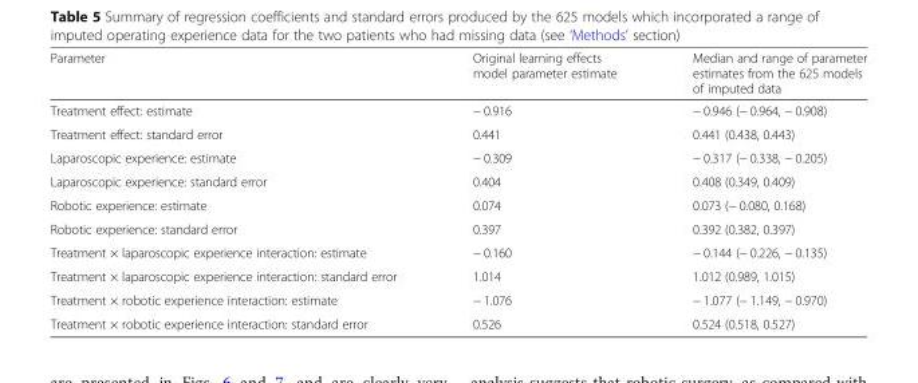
<table><thead><tr><td>Parameter</td><td>Original learning effects model parameter estimate</td><td>Median and range of parameter estimates from the 625 models of imputed data</td></tr></thead><tbody><tr><td>Treatment effect: estimate</td><td>− 0.916</td><td>− 0.946 (− 0.964, − 0.908)</td></tr><tr><td>Treatment effect: standard error</td><td>0.441</td><td>0.441 (0.438, 0.443)</td></tr><tr><td>Laparoscopic experience: estimate</td><td>− 0.309</td><td>− 0.317 (− 0.338, − 0.205)</td></tr><tr><td>Laparoscopic experience: standard error</td><td>0.404</td><td>0.408 (0.349, 0.409)</td></tr><tr><td>Robotic experience: estimate</td><td>0.074</td><td>0.073 (− 0.080, 0.168)</td></tr><tr><td>Robotic experience: standard error</td><td>0.397</td><td>0.392 (0.382, 0.397)</td></tr><tr><td>Treatment × laparoscopic experience interaction: estimate</td><td>− 0.160</td><td>− 0.144 (− 0.226, − 0.135)</td></tr><tr><td>Treatment × laparoscopic experience interaction: standard error</td><td>1.014</td><td>1.012 (0.989, 1.015)</td></tr><tr><td>Treatment × robotic experience interaction: estimate</td><td>− 1.076</td><td>− 1.077 (− 1.149, − 0.970)</td></tr><tr><td>Treatment × robotic experience interaction: standard error</td><td>0.526</td><td>0.524 (0.518, 0.527)</td></tr></tbody></table>